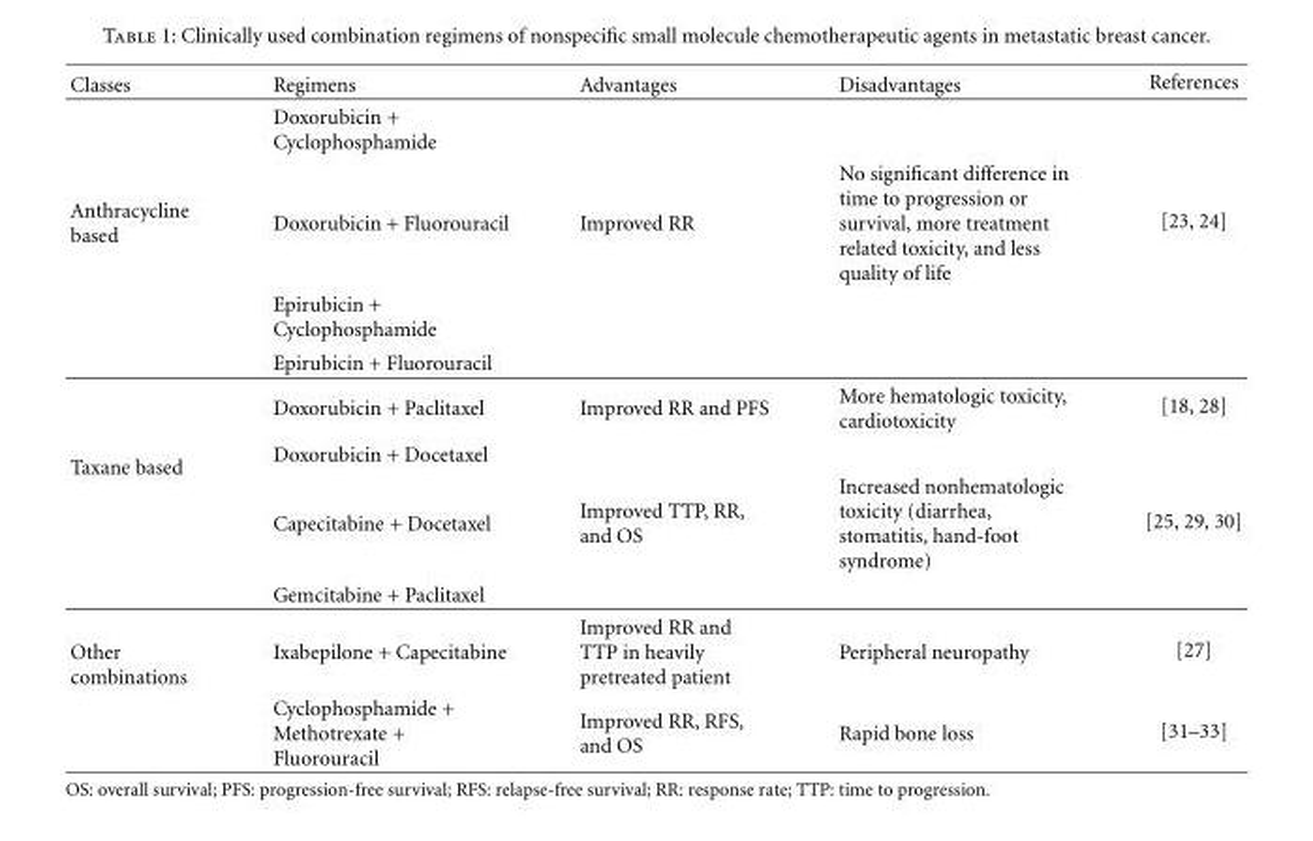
<table><thead><tr><td>Classes</td><td>Regimens</td><td>Advantages</td><td>Disadvantages</td><td>References</td></tr></thead><tbody><tr><td></td><td>Doxorubicin + Cyclophosphamide</td><td></td><td></td><td></td></tr><tr><td rowspan="4">Anthracycline based</td><td>Doxorubicin + Fluorouracil</td><td>Improved RR</td><td>No significant difference in time to progression or survival, more treatment related toxicity, and less quality of life</td><td>[23, 24]</td></tr><tr><td>Epirubicin + Cyclophosphamide</td><td></td><td></td><td></td></tr><tr><td>Epirubicin + Fluorouracil</td><td></td><td></td><td></td></tr><tr><td>Doxorubicin + Paclitaxel</td><td>Improved RR and PFS</td><td>More hematologic toxicity, cardiotoxicity</td><td>[18, 28]</td></tr><tr><td rowspan="3">Taxane based</td><td>Doxorubicin + Docetaxel</td><td></td><td></td><td></td></tr><tr><td>Capecitabine + Docetaxel</td><td>Improved TTP, RR, and OS</td><td>Increased nonhematologic toxicity (diarrhea, stomatitis, hand-foot syndrome)</td><td>[25, 29, 30]</td></tr><tr><td>Gemcitabine + Paclitaxel</td><td></td><td></td><td></td></tr><tr><td rowspan="2">Other combinations</td><td>Ixabepilone + Capecitabine</td><td>Improved RR and TTP in heavily pretreated patient</td><td>Peripheral neuropathy</td><td>[27]</td></tr><tr><td>Cyclophosphamide + Methotrexate + Fluorouracil</td><td>Improved RR, RFS, and OS</td><td>Rapid bone loss</td><td>[31–33]</td></tr></tbody></table>